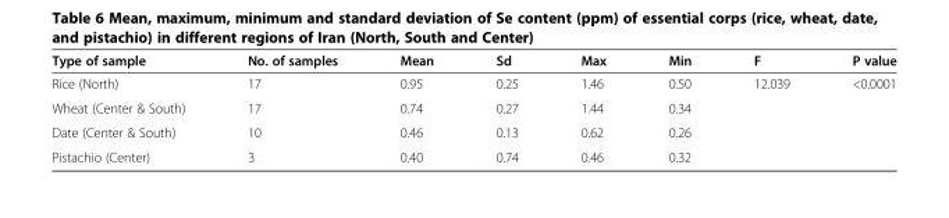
<table><thead><tr><td>Type of sample</td><td>No. of samples</td><td>Mean</td><td>Sd</td><td>Max</td><td>Min</td><td>F</td><td>P value</td></tr></thead><tbody><tr><td>Rice (North)</td><td>17</td><td>0.95</td><td>0.25</td><td>1.46</td><td>0.50</td><td>12.039</td><td>&lt;0.0001</td></tr><tr><td>Wheat (Center &amp; South)</td><td>17</td><td>0.74</td><td>0.27</td><td>1.44</td><td>0.34</td><td></td><td></td></tr><tr><td>Date (Center &amp; South)</td><td>10</td><td>0.46</td><td>0.13</td><td>0.62</td><td>0.26</td><td></td><td></td></tr><tr><td>Pistachio (Center)</td><td>3</td><td>0.40</td><td>0.74</td><td>0.46</td><td>0.32</td><td></td><td></td></tr></tbody></table>